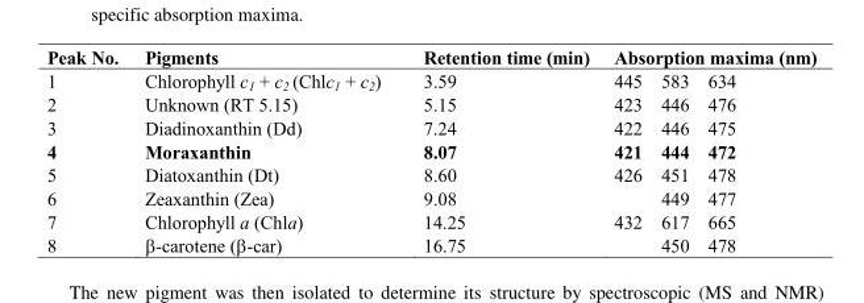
<table><thead><tr><td rowspan="2">Peak No. 1</td><td rowspan="2">Pigments Chlorophyll c<sub>1</sub> + c<sub>2</sub> (Chlc<sub>1</sub> + c<sub>2</sub>)</td><td rowspan="2">Retention time (min) 3.59</td><td colspan="3">Absorption maxima (nm)</td></tr><tr><td>445</td><td>583</td><td>634</td></tr></thead><tbody><tr><td>2</td><td>Unknown (RT 5.15)</td><td>5.15</td><td>423</td><td>446</td><td>476</td></tr><tr><td>3</td><td>Diadinoxanthin (Dd)</td><td>7.24</td><td>422</td><td>446</td><td>475</td></tr><tr><td>4</td><td>Moraxanthin</td><td>8.07</td><td>421</td><td>444</td><td>472</td></tr><tr><td>5</td><td>Diatoxanthin (Dt)</td><td>8.60</td><td>426</td><td>451</td><td>478</td></tr><tr><td>6</td><td>Zeaxanthin (Zea)</td><td>9.08</td><td></td><td>449</td><td>477</td></tr><tr><td>7</td><td>Chlorophyll a (Chla)</td><td>14.25</td><td>432</td><td>617</td><td>665</td></tr><tr><td>8</td><td>b-carotene (b-car)</td><td>16.75</td><td></td><td>450</td><td>478</td></tr></tbody></table>